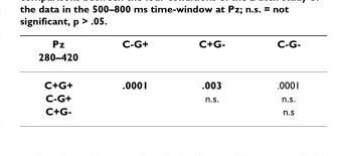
<table><thead><tr><td rowspan="2">Pz 280–420</td><td rowspan="2">C-G+</td><td rowspan="2">C+G-</td><td rowspan="2">C-G-</td></tr><tr></tr></thead><tbody><tr><td>C+G+</td><td>.0001</td><td>.003</td><td>.0001</td></tr><tr><td>C-G+</td><td></td><td>n.s.</td><td>n.s.</td></tr><tr><td>C+G-</td><td></td><td></td><td>n.s</td></tr></tbody></table>